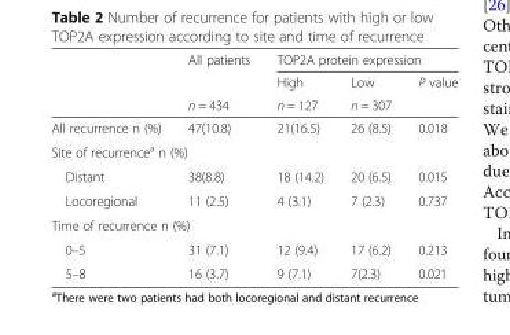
<table><thead><tr><td rowspan="3"></td><td rowspan="3">All patients n = 434</td><td colspan="3">TOP2A protein expression</td></tr><tr><td rowspan="2">High n = 127</td><td rowspan="2">Low n = 307</td><td rowspan="2">P value</td></tr><tr></tr></thead><tbody><tr><td>All recurrence n (%)</td><td>47(10.8)</td><td>21(16.5)</td><td>26 (8.5)</td><td>0.018</td></tr><tr><td colspan="5">Site of recurrence<sup>a</sup> n (%)</td></tr><tr><td>Distant</td><td>38(8.8)</td><td>18 (14.2)</td><td>20 (6.5)</td><td>0.015</td></tr><tr><td>Locoregional</td><td>11 (2.5)</td><td>4 (3.1)</td><td>7 (2.3)</td><td>0.737</td></tr><tr><td colspan="5">Time of recurrence n (%)</td></tr><tr><td>0–5</td><td>31 (7.1)</td><td>12 (9.4)</td><td>17 (6.2)</td><td>0.213</td></tr><tr><td>5–8</td><td>16 (3.7)</td><td>9 (7.1)</td><td>7(2.3)</td><td>0.021</td></tr></tbody></table>